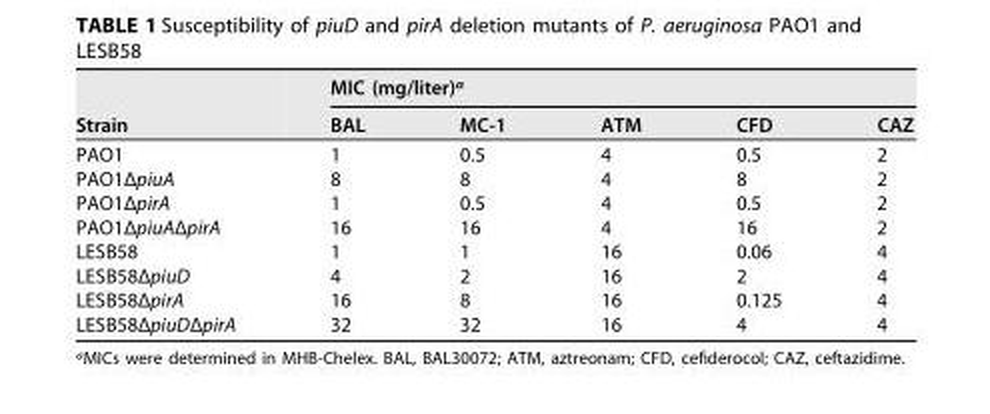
<table><thead><tr><td rowspan="2">Strain</td><td colspan="5">MIC (mg/liter)<sup>a</sup></td></tr><tr><td>BAL</td><td>MC-1</td><td>ATM</td><td>CFD</td><td>CAZ</td></tr></thead><tbody><tr><td>PAO1</td><td>1</td><td>0.5</td><td>4</td><td>0.5</td><td>2</td></tr><tr><td>PAO1ΔpiuA</td><td>8</td><td>8</td><td>4</td><td>8</td><td>2</td></tr><tr><td>PAO1ΔpirA</td><td>1</td><td>0.5</td><td>4</td><td>0.5</td><td>2</td></tr><tr><td>PAO1ΔpiuAΔpirA</td><td>16</td><td>16</td><td>4</td><td>16</td><td>2</td></tr><tr><td>LESB58</td><td>1</td><td>1</td><td>16</td><td>0.06</td><td>4</td></tr><tr><td>LESB58ΔpiuD</td><td>4</td><td>2</td><td>16</td><td>2</td><td>4</td></tr><tr><td>LESB58ΔpirA</td><td>16</td><td>8</td><td>16</td><td>0.125</td><td>4</td></tr><tr><td>LESB58ΔpiuDΔpirA</td><td>32</td><td>32</td><td>16</td><td>4</td><td>4</td></tr></tbody></table>